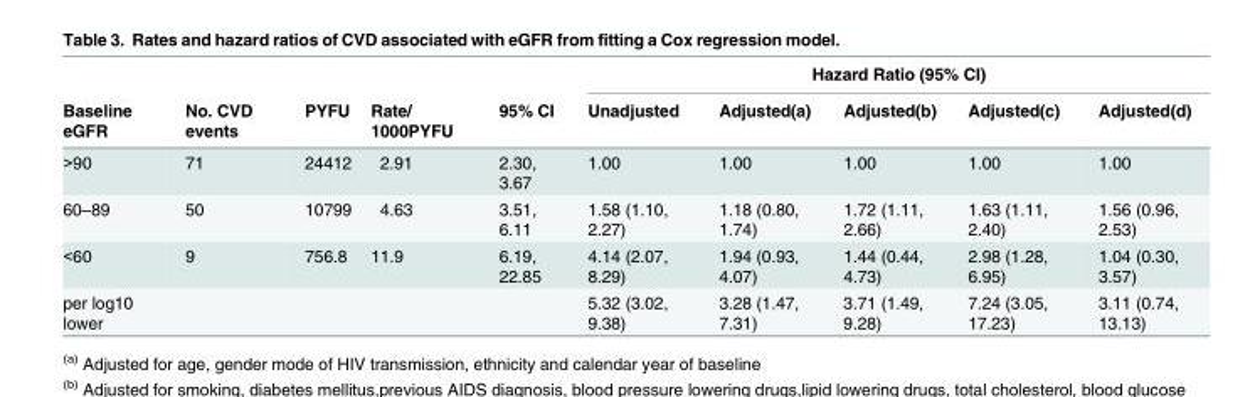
<table><thead><tr><td rowspan="2">Baseline eGFR</td><td rowspan="2">No. CVD events</td><td rowspan="2">PYFU</td><td rowspan="2">Rate/ 1000PYFU</td><td rowspan="2">95% CI</td><td colspan="5">Hazard Ratio (95% CI)</td></tr><tr><td>Unadjusted</td><td>Adjusted(a)</td><td>Adjusted(b)</td><td>Adjusted(c)</td><td>Adjusted(d)</td></tr></thead><tbody><tr><td>&gt;90</td><td>71</td><td>24412</td><td>2.91</td><td>2.30, 3.67</td><td>1.00</td><td>1.00</td><td>1.00</td><td>1.00</td><td>1.00</td></tr><tr><td>60–89</td><td>50</td><td>10799</td><td>4.63</td><td>3.51, 6.11</td><td>1.58 (1.10, 2.27)</td><td>1.18 (0.80, 1.74)</td><td>1.72 (1.11, 2.66)</td><td>1.63 (1.11, 2.40)</td><td>1.56 (0.96, 2.53)</td></tr><tr><td>&lt;60</td><td>9</td><td>756.8</td><td>11.9</td><td>6.19, 22.85</td><td>4.14 (2.07, 8.29)</td><td>1.94 (0.93, 4.07)</td><td>1.44 (0.44, 4.73)</td><td>2.98 (1.28, 6.95)</td><td>1.04 (0.30, 3.57)</td></tr><tr><td>per log10 lower</td><td></td><td></td><td></td><td></td><td>5.32 (3.02, 9.38)</td><td>3.28 (1.47, 7.31)</td><td>3.71 (1.49, 9.28)</td><td>7.24 (3.05, 17.23)</td><td>3.11 (0.74, 13.13)</td></tr></tbody></table>